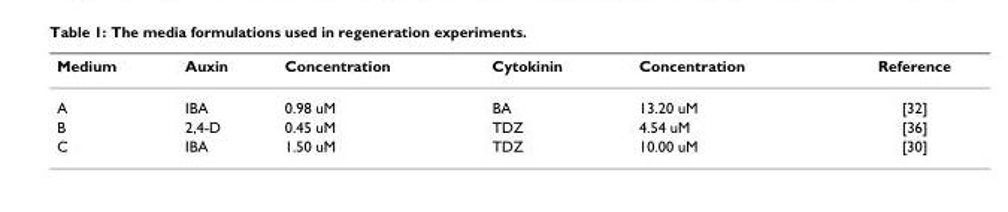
<table><thead><tr><td>Medium</td><td>Auxin</td><td>Concentration</td><td>Cytokinin</td><td>Concentration</td><td>Reference</td></tr></thead><tbody><tr><td>A</td><td>IBA</td><td>0.98 uM</td><td>BA</td><td>13.20 uM</td><td>[32]</td></tr><tr><td>B</td><td>2,4-D</td><td>0.45 uM</td><td>TDZ</td><td>4.54 uM</td><td>[36]</td></tr><tr><td>C</td><td>IBA</td><td>1.50 uM</td><td>TDZ</td><td>10.00 uM</td><td>[30]</td></tr></tbody></table>